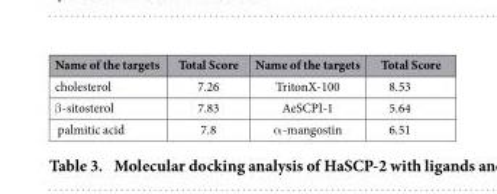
<table><thead><tr><td>Name of the targets</td><td>Total Score</td><td>Name of the targets</td><td>Total Score</td></tr></thead><tbody><tr><td>cholesterol</td><td>7.26</td><td>TritonX-100</td><td>8.53</td></tr><tr><td>β -sitosterol</td><td>7.83</td><td>AeSCPI-1</td><td>5.64</td></tr><tr><td>palmitic acid</td><td>7.8</td><td>α -mangostin</td><td>6.51</td></tr></tbody></table>